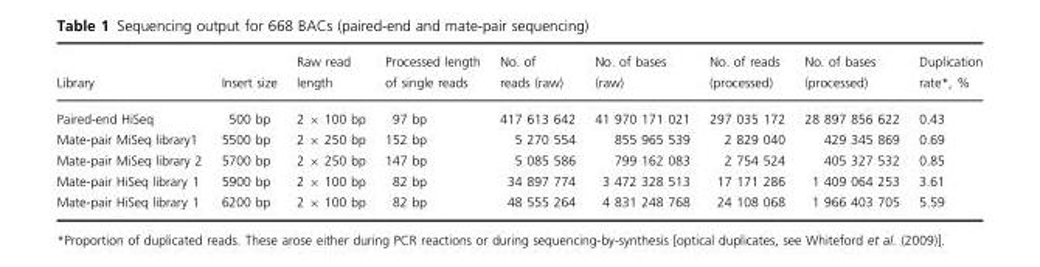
<table><thead><tr><td>Library</td><td>Insert size</td><td>Raw read length</td><td>Processed length of single reads</td><td>No. of reads (raw)</td><td>No. of bases (raw)</td><td>No. of reads (processed)</td><td>No. of bases (processed)</td><td>Duplication rate*, %</td></tr></thead><tbody><tr><td>Paired-end HiSeq</td><td>500 bp</td><td>2 × 100 bp</td><td>97 bp</td><td>417 613 642</td><td>41 970 171 021</td><td>297 035 172</td><td>28 897 856 622</td><td>0.43</td></tr><tr><td>Mate-pair MiSeq library1</td><td>5500 bp</td><td>2 × 250 bp</td><td>152 bp</td><td>5 270 554</td><td>855 965 539</td><td>2 829 040</td><td>429 345 869</td><td>0.69</td></tr><tr><td>Mate-pair MiSeq library 2</td><td>5700 bp</td><td>2 × 250 bp</td><td>147 bp</td><td>5 085 586</td><td>799 162 083</td><td>2 754 524</td><td>405 327 532</td><td>0.85</td></tr><tr><td>Mate-pair HiSeq library 1</td><td>5900 bp</td><td>2 × 100 bp</td><td>82 bp</td><td>34 897 774</td><td>3 472 328 513</td><td>17 171 286</td><td>1 409 064 253</td><td>3.61</td></tr><tr><td>Mate-pair HiSeq library 1</td><td>6200 bp</td><td>2 × 100 bp</td><td>82 bp</td><td>48 555 264</td><td>4 831 248 768</td><td>24 108 068</td><td>1 966 403 705</td><td>5.59</td></tr></tbody></table>